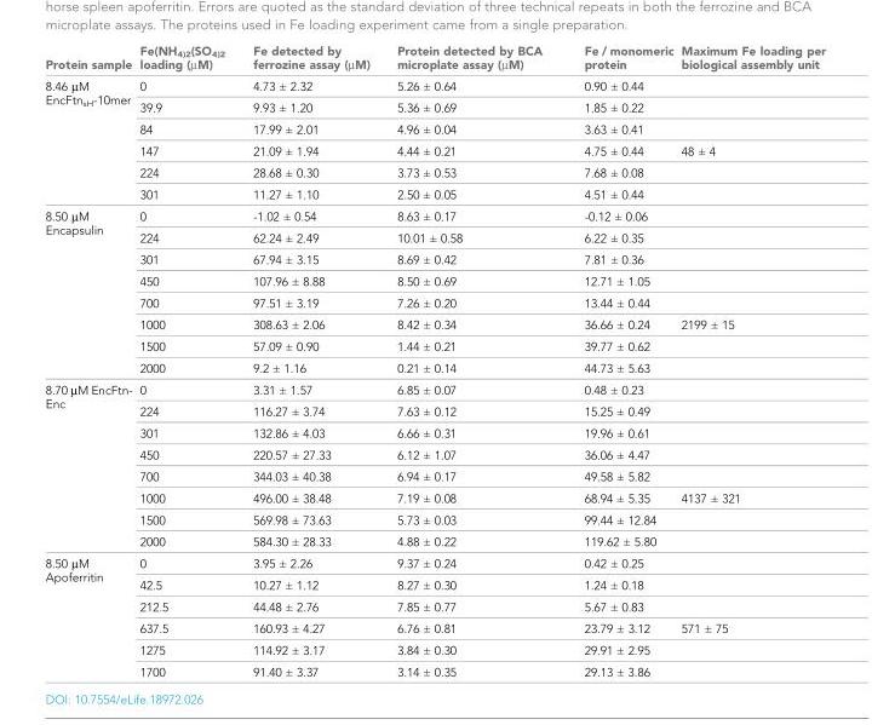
<table><thead><tr><td>Protein sample</td><td>Fe(NH<sub>4)2</sub>(SO<sub>4)2</sub> loading (µM)</td><td>Fe detected by ferrozine assay (µM)</td><td>Protein detected by BCA microplate assay (µM)</td><td>Fe / monomeric protein</td><td>Maximum Fe loading per biological assembly unit</td></tr></thead><tbody><tr><td rowspan="6">8.46 µM EncFtn<sub>sH</sub>-10mer</td><td>0</td><td>4.73 ± 2.32</td><td>5.26 ± 0.64</td><td>0.90 ± 0.44</td><td></td></tr><tr><td>39.9</td><td>9.93 ± 1.20</td><td>5.36 ± 0.69</td><td>1.85 ± 0.22</td><td></td></tr><tr><td>84</td><td>17.99 ± 2.01</td><td>4.96 ± 0.04</td><td>3.63 ± 0.41</td><td></td></tr><tr><td>147</td><td>21.09 ± 1.94</td><td>4.44 ± 0.21</td><td>4.75 ± 0.44</td><td>48 ± 4</td></tr><tr><td>224</td><td>28.68 ± 0.30</td><td>3.73 ± 0.53</td><td>7.68 ± 0.08</td><td></td></tr><tr><td>301</td><td>11.27 ± 1.10</td><td>2.50 ± 0.05</td><td>4.51 ± 0.44</td><td></td></tr><tr><td rowspan="8">8.50 µM Encapsulin</td><td>0</td><td>-1.02 ± 0.54</td><td>8.63 ± 0.17</td><td>-0.12 ± 0.06</td><td></td></tr><tr><td>224</td><td>62.24 ± 2.49</td><td>10.01 ± 0.58</td><td>6.22 ± 0.35</td><td></td></tr><tr><td>301</td><td>67.94 ± 3.15</td><td>8.69 ± 0.42</td><td>7.81 ± 0.36</td><td></td></tr><tr><td>450</td><td>107.96 ± 8.88</td><td>8.50 ± 0.69</td><td>12.71 ± 1.05</td><td></td></tr><tr><td>700</td><td>97.51 ± 3.19</td><td>7.26 ± 0.20</td><td>13.44 ± 0.44</td><td></td></tr><tr><td>1000</td><td>308.63 ± 2.06</td><td>8.42 ± 0.34</td><td>36.66 ± 0.24</td><td>2199 ± 15</td></tr><tr><td>1500</td><td>57.09 ± 0.90</td><td>1.44 ± 0.21</td><td>39.77 ± 0.62</td><td></td></tr><tr><td>2000</td><td>9.2 ± 1.16</td><td>0.21 ± 0.14</td><td>44.73 ± 5.63</td><td></td></tr><tr><td rowspan="8">8.70 µM EncFtn- Enc</td><td>0</td><td>3.31 ± 1.57</td><td>6.85 ± 0.07</td><td>0.48 ± 0.23</td><td></td></tr><tr><td>224</td><td>116.27 ± 3.74</td><td>7.63 ± 0.12</td><td>15.25 ± 0.49</td><td></td></tr><tr><td>301</td><td>132.86 ± 4.03</td><td>6.66 ± 0.31</td><td>19.96 ± 0.61</td><td></td></tr><tr><td>450</td><td>220.57 ± 27.33</td><td>6.12 ± 1.07</td><td>36.06 ± 4.47</td><td></td></tr><tr><td>700</td><td>344.03 ± 40.38</td><td>6.94 ± 0.17</td><td>49.58 ± 5.82</td><td></td></tr><tr><td>1000</td><td>496.00 ± 38.48</td><td>7.19 ± 0.08</td><td>68.94 ± 5.35</td><td>4137 ± 321</td></tr><tr><td>1500</td><td>569.98 ± 73.63</td><td>5.73 ± 0.03</td><td>99.44 ± 12.84</td><td></td></tr><tr><td>2000</td><td>584.30 ± 28.33</td><td>4.88 ± 0.22</td><td>119.62 ± 5.80</td><td></td></tr><tr><td rowspan="6">8.50 µM Apoferritin</td><td>0</td><td>3.95 ± 2.26</td><td>9.37 ± 0.24</td><td>0.42 ± 0.25</td><td></td></tr><tr><td>42.5</td><td>10.27 ± 1.12</td><td>8.27 ± 0.30</td><td>1.24 ± 0.18</td><td></td></tr><tr><td>212.5</td><td>44.48 ± 2.76</td><td>7.85 ± 0.77</td><td>5.67 ± 0.83</td><td></td></tr><tr><td>637.5</td><td>160.93 ± 4.27</td><td>6.76 ± 0.81</td><td>23.79 ± 3.12</td><td>571 ± 75</td></tr><tr><td>1275</td><td>114.92 ± 3.17</td><td>3.84 ± 0.30</td><td>29.91 ± 2.95</td><td></td></tr><tr><td>1700</td><td>91.40 ± 3.37</td><td>3.14 ± 0.35</td><td>29.13 ± 3.86</td><td></td></tr></tbody></table>